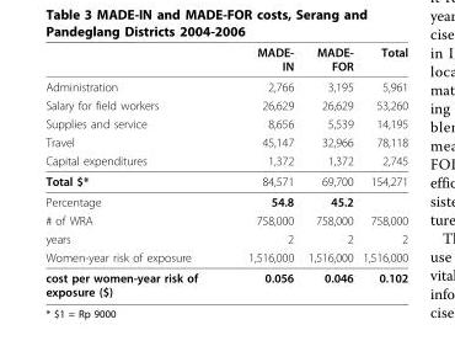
<table><thead><tr><td></td><td>MADE- IN</td><td>MADE- FOR</td><td>Total</td></tr></thead><tbody><tr><td>Administration</td><td>2,766</td><td>3,195</td><td>5,961</td></tr><tr><td>Salary for field workers</td><td>26,629</td><td>26,629</td><td>53,260</td></tr><tr><td>Supplies and service</td><td>8,656</td><td>5,539</td><td>14,195</td></tr><tr><td>Travel</td><td>45,147</td><td>32,966</td><td>78,118</td></tr><tr><td>Capital expenditures</td><td>1,372</td><td>1,372</td><td>2,745</td></tr><tr><td>Total $*</td><td>84,571</td><td>69,700</td><td>154,271</td></tr><tr><td>Percentage</td><td>54.8</td><td>45.2</td><td></td></tr><tr><td># of WRA</td><td>758,000</td><td>758,000</td><td>758,000</td></tr><tr><td>years</td><td>2</td><td>2</td><td>2</td></tr><tr><td>Women-year risk of exposure</td><td>1,516,000</td><td>1,516,000</td><td>1,516,000</td></tr><tr><td>cost per women-year risk of exposure ($)</td><td>0.056</td><td>0.046</td><td>0.102</td></tr></tbody></table>